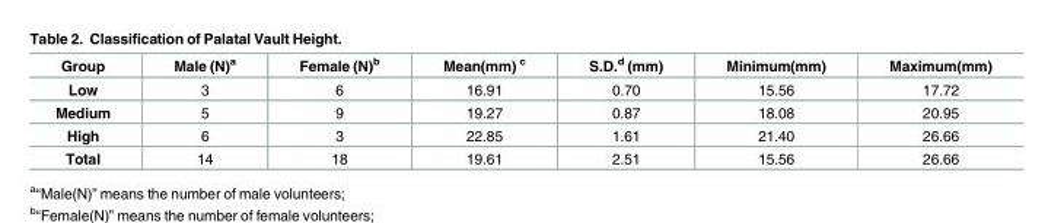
<table><thead><tr><td>Group</td><td>Male (N)<sup>a</sup></td><td>Female (N)<sup>b</sup></td><td>Mean(mm) <sup>c</sup></td><td>S.D.<sup>d</sup> (mm)</td><td>Minimum(mm)</td><td>Maximum(mm)</td></tr></thead><tbody><tr><td>Low</td><td>3</td><td>6</td><td>16.91</td><td>0.70</td><td>15.56</td><td>17.72</td></tr><tr><td>Medium</td><td>5</td><td>9</td><td>19.27</td><td>0.87</td><td>18.08</td><td>20.95</td></tr><tr><td>High</td><td>6</td><td>3</td><td>22.85</td><td>1.61</td><td>21.40</td><td>26.66</td></tr><tr><td>Total</td><td>14</td><td>18</td><td>19.61</td><td>2.51</td><td>15.56</td><td>26.66</td></tr></tbody></table>